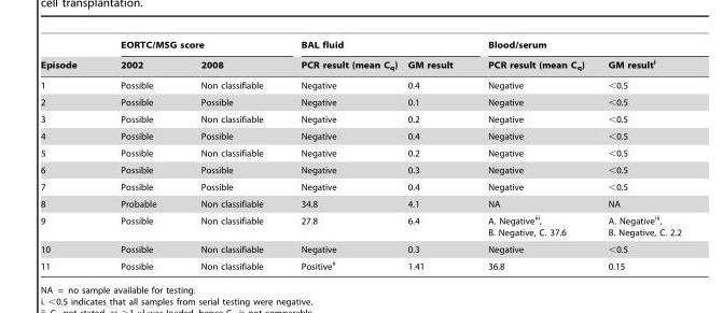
<table><thead><tr><td rowspan="2">Episode</td><td colspan="2">EORTC/MSG score</td><td colspan="2">BAL fluid</td><td colspan="2">Blood/serum</td></tr><tr><td>2002</td><td>2008</td><td>PCR result (mean C<sub>q</sub>)</td><td>GM result</td><td>PCR result (mean C<sub>q</sub>)</td><td>GM result<sup>i</sup></td></tr></thead><tbody><tr><td>1</td><td>Possible</td><td>Non classifiable</td><td>Negative</td><td>0.4</td><td>Negative</td><td>&lt;0.5</td></tr><tr><td>2</td><td>Possible</td><td>Possible</td><td>Negative</td><td>0.1</td><td>Negative</td><td>&lt;0.5</td></tr><tr><td>3</td><td>Possible</td><td>Non classifiable</td><td>Negative</td><td>0.2</td><td>Negative</td><td>&lt;0.5</td></tr><tr><td>4</td><td>Possible</td><td>Possible</td><td>Negative</td><td>0.4</td><td>Negative</td><td>&lt;0.5</td></tr><tr><td>5</td><td>Possible</td><td>Non classifiable</td><td>Negative</td><td>0.2</td><td>Negative</td><td>&lt;0.5</td></tr><tr><td>6</td><td>Possible</td><td>Possible</td><td>Negative</td><td>0.3</td><td>Negative</td><td>&lt;0.5</td></tr><tr><td>7</td><td>Possible</td><td>Possible</td><td>Negative</td><td>0.4</td><td>Negative</td><td>&lt;0.5</td></tr><tr><td>8</td><td>Probable</td><td>Non classifiable</td><td>34.8</td><td>4.1</td><td>NA</td><td>NA</td></tr><tr><td>9</td><td>Possible</td><td>Non classifiable</td><td>27.8</td><td>6.4</td><td>A. Negative<sup>iii</sup>, B. Negative, C. 37.6</td><td>A. Negative<sup>iii</sup>, B. Negative, C. 2.2</td></tr><tr><td>10</td><td>Possible</td><td>Non classifiable</td><td>Negative</td><td>0.3</td><td>Negative</td><td>&lt;0.5</td></tr><tr><td>11</td><td>Possible</td><td>Non classifiable</td><td>Positive<sup>ii</sup></td><td>1.41</td><td>36.8</td><td>0.15</td></tr></tbody></table>